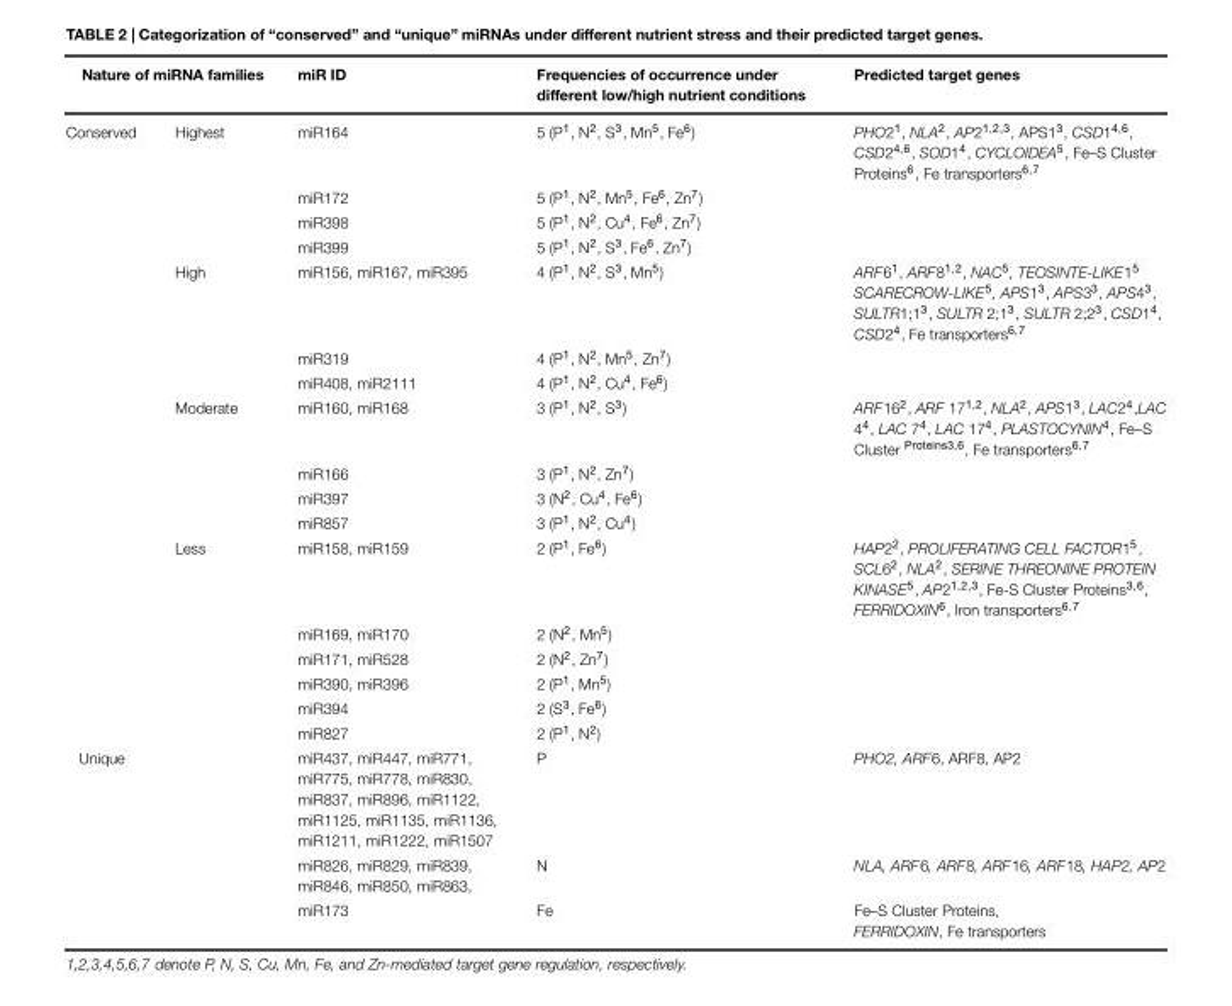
<table><thead><tr><td colspan="2">Nature of miRNA families</td><td rowspan="2">miR ID miR164</td><td rowspan="2">Frequencies of occurrence under different low/high nutrient conditions 5 (P<sup>1</sup>, N<sup>2</sup>, S<sup>3</sup>, Mn<sup>5</sup>, Fe<sup>6</sup>)</td><td rowspan="2">Predicted target genes PHO2<sup>1</sup>, NLA<sup>2</sup>, AP2<sup>1,2,3</sup>, APS1<sup>3</sup>, CSD1<sup>4,6</sup>, CSD2<sup>4,6</sup>, SOD1<sup>4</sup>, CYCLOIDEA<sup>5</sup>, Fe–S Cluster Proteins<sup>6</sup>, Fe transporters<sup>6,7</sup></td></tr><tr><td>Conserved</td><td>Highest</td></tr></thead><tbody><tr><td></td><td></td><td>miR172</td><td>5 (P<sup>1</sup>, N<sup>2</sup>, Mn<sup>5</sup>, Fe<sup>6</sup>, Zn<sup>7</sup>)</td><td></td></tr><tr><td></td><td></td><td>miR398</td><td>5 (P<sup>1</sup>, N<sup>2</sup>, Cu<sup>4</sup>, Fe<sup>6</sup>, Zn<sup>7</sup>)</td><td></td></tr><tr><td></td><td></td><td>miR399</td><td>5 (P<sup>1</sup>, N<sup>2</sup>, S<sup>3</sup>, Fe<sup>6</sup>, Zn<sup>7</sup>)</td><td></td></tr><tr><td></td><td>High</td><td>miR156, miR167, miR395</td><td>4 (P<sup>1</sup>, N<sup>2</sup>, S<sup>3</sup>, Mn<sup>5</sup>)</td><td>ARF6<sup>1</sup>, ARF8<sup>1,2</sup>, NAC<sup>5</sup>, TEOSINTE-LIKE1<sup>5</sup> SCARECROW-LIKE<sup>5</sup>, APS1<sup>3</sup>, APS3<sup>3</sup>, APS4<sup>3</sup>, SULTR1;1<sup>3</sup>, SULTR 2;1<sup>3</sup>, SULTR 2;2<sup>3</sup>, CSD1<sup>4</sup>, CSD2<sup>4</sup>, Fe transporters<sup>6,7</sup></td></tr><tr><td></td><td></td><td>miR319</td><td>4 (P<sup>1</sup>, N<sup>2</sup>, Mn<sup>5</sup>, Zn<sup>7</sup>)</td><td></td></tr><tr><td></td><td></td><td>miR408, miR2111</td><td>4 (P<sup>1</sup>, N<sup>2</sup>, Cu<sup>4</sup>, Fe<sup>6</sup>)</td><td></td></tr><tr><td></td><td>Moderate</td><td>miR160, miR168</td><td>3 (P<sup>1</sup>, N<sup>2</sup>, S<sup>3</sup>)</td><td>ARF16<sup>2</sup>, ARF 17<sup>1,2</sup>, NLA<sup>2</sup>, APS1<sup>3</sup>, LAC2<sup>4</sup>,LAC 4<sup>4</sup>, LAC 7<sup>4</sup>, LAC 17<sup>4</sup>, PLASTOCYNIN<sup>4</sup>, Fe–S Cluster <sup>Proteins3,6</sup>, Fe transporters<sup>6,7</sup></td></tr><tr><td></td><td></td><td>miR166</td><td>3 (P<sup>1</sup>, N<sup>2</sup>, Zn<sup>7</sup>)</td><td></td></tr><tr><td></td><td></td><td>miR397</td><td>3 (N<sup>2</sup>, Cu<sup>4</sup>, Fe<sup>6</sup>)</td><td></td></tr><tr><td></td><td></td><td>miR857</td><td>3 (P<sup>1</sup>, N<sup>2</sup>, Cu<sup>4</sup>)</td><td></td></tr><tr><td></td><td>Less</td><td>miR158, miR159</td><td>2 (P<sup>1</sup>, Fe<sup>6</sup>)</td><td>HAP2<sup>2</sup>, PROLIFERATING CELL FACTOR1<sup>5</sup>, SCL6<sup>2</sup>, NLA<sup>2</sup>, SERINE THREONINE PROTEIN KINASE<sup>5</sup>, AP2<sup>1,2,3</sup>, Fe-S Cluster Proteins<sup>3,6</sup>, FERRIDOXIN<sup>6</sup>, Iron transporters<sup>6,7</sup></td></tr><tr><td></td><td></td><td>miR169, miR170</td><td>2 (N<sup>2</sup>, Mn<sup>5</sup>)</td><td></td></tr><tr><td></td><td></td><td>miR171, miR528</td><td>2 (N<sup>2</sup>, Zn<sup>7</sup>)</td><td></td></tr><tr><td></td><td></td><td>miR390, miR396</td><td>2 (P<sup>1</sup>, Mn<sup>5</sup>)</td><td></td></tr><tr><td></td><td></td><td>miR394</td><td>2 (S<sup>3</sup>, Fe<sup>6</sup>)</td><td></td></tr><tr><td></td><td></td><td>miR827</td><td>2 (P<sup>1</sup>, N<sup>2</sup>)</td><td></td></tr><tr><td rowspan="3" colspan="2">Unique</td><td>miR437, miR447, miR771, miR775, miR778, miR830, miR837, miR896, miR1122, miR1125, miR1135, miR1136, miR1211, miR1222, miR1507</td><td>P</td><td>PHO2, ARF6, ARF8, AP2</td></tr><tr><td>miR826, miR829, miR839, miR846, miR850, miR863,</td><td>N</td><td>NLA, ARF6, ARF8, ARF16, ARF18, HAP2, AP2</td></tr><tr><td>miR173</td><td>Fe</td><td>Fe–S Cluster Proteins, FERRIDOXIN, Fe transporters</td></tr></tbody></table>